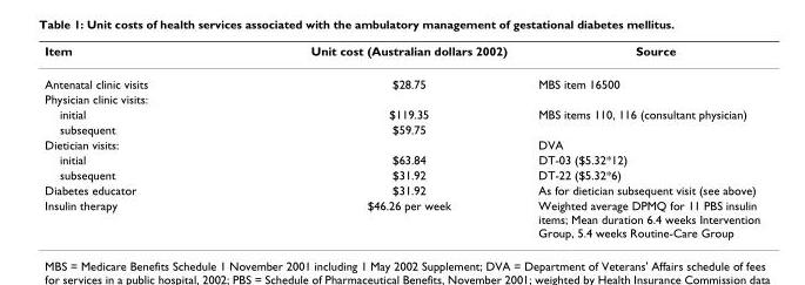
<table><thead><tr><td>Item</td><td>Unit cost (Australian dollars 2002)</td><td>Source</td></tr></thead><tbody><tr><td>Antenatal clinic visits</td><td>$28.75</td><td>MBS item 16500</td></tr><tr><td colspan="3">Physician clinic visits:</td></tr><tr><td>initial</td><td>$119.35</td><td>MBS items 110, 116 (consultant physician)</td></tr><tr><td>subsequent</td><td>$59.75</td><td></td></tr><tr><td>Dietician visits:</td><td></td><td>DVA</td></tr><tr><td>initial</td><td>$63.84</td><td>DT-03 ($5.32*12)</td></tr><tr><td>subsequent</td><td>$31.92</td><td>DT-22 ($5.32*6)</td></tr><tr><td>Diabetes educator</td><td>$31.92</td><td>As for dietician subsequent visit (see above)</td></tr><tr><td>Insulin therapy</td><td>$46.26 per week</td><td>Weighted average DPMQ for 11 PBS insulin items; Mean duration 6.4 weeks Intervention Group, 5.4 weeks Routine-Care Group</td></tr></tbody></table>